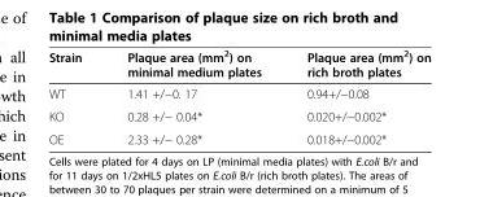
<table><thead><tr><td>Strain</td><td>Plaque area (mm<sup>2</sup>) on minimal medium plates</td><td>Plaque area (mm<sup>2</sup>) on rich broth plates</td></tr></thead><tbody><tr><td>WT</td><td>1.41 +/−0. 17</td><td>0.94+/−0.08</td></tr><tr><td>KO</td><td>0.28 +/− 0.04*</td><td>0.020+/−0.002*</td></tr><tr><td>OE</td><td>2.33 +/− 0.28*</td><td>0.018+/−0.002*</td></tr></tbody></table>